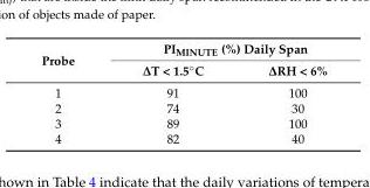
<table><thead><tr><td rowspan="2">Probe</td><td colspan="2">PI<sub>MINUTE</sub> (%) Daily Span</td></tr><tr><td>∆T &lt; 1.5◦C</td><td>∆RH &lt; 6%</td></tr></thead><tbody><tr><td>1</td><td>91</td><td>100</td></tr><tr><td>2</td><td>74</td><td>30</td></tr><tr><td>3</td><td>89</td><td>100</td></tr><tr><td>4</td><td>82</td><td>40</td></tr></tbody></table>